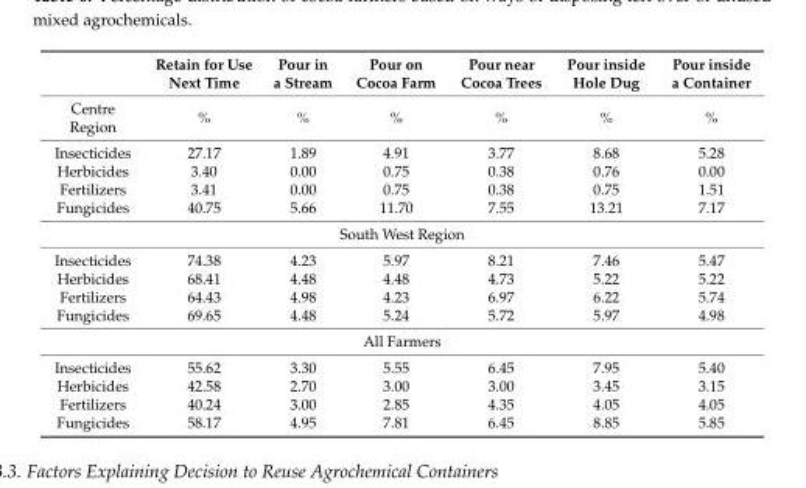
<table><thead><tr><td></td><td>Retain for Use Next Time</td><td>Pour in a Stream</td><td>Pour on Cocoa Farm</td><td>Pour near Cocoa Trees</td><td>Pour inside Hole Dug</td><td>Pour inside a Container</td></tr></thead><tbody><tr><td>Centre Region</td><td>%</td><td>%</td><td>%</td><td>%</td><td>%</td><td>%</td></tr><tr><td>Insecticides</td><td>27.17</td><td>1.89</td><td>4.91</td><td>3.77</td><td>8.68</td><td>5.28</td></tr><tr><td>Herbicides</td><td>3.40</td><td>0.00</td><td>0.75</td><td>0.38</td><td>0.76</td><td>0.00</td></tr><tr><td>Fertilizers</td><td>3.41</td><td>0.00</td><td>0.75</td><td>0.38</td><td>0.75</td><td>1.51</td></tr><tr><td>Fungicides</td><td>40.75</td><td>5.66</td><td>11.70</td><td>7.55</td><td>13.21</td><td>7.17</td></tr><tr><td colspan="7">South West Region</td></tr><tr><td>Insecticides</td><td>74.38</td><td>4.23</td><td>5.97</td><td>8.21</td><td>7.46</td><td>5.47</td></tr><tr><td>Herbicides</td><td>68.41</td><td>4.48</td><td>4.48</td><td>4.73</td><td>5.22</td><td>5.22</td></tr><tr><td>Fertilizers</td><td>64.43</td><td>4.98</td><td>4.23</td><td>6.97</td><td>6.22</td><td>5.74</td></tr><tr><td>Fungicides</td><td>69.65</td><td>4.48</td><td>5.24</td><td>5.72</td><td>5.97</td><td>4.98</td></tr><tr><td colspan="7">All Farmers</td></tr><tr><td>Insecticides</td><td>55.62</td><td>3.30</td><td>5.55</td><td>6.45</td><td>7.95</td><td>5.40</td></tr><tr><td>Herbicides</td><td>42.58</td><td>2.70</td><td>3.00</td><td>3.00</td><td>3.45</td><td>3.15</td></tr><tr><td>Fertilizers</td><td>40.24</td><td>3.00</td><td>2.85</td><td>4.35</td><td>4.05</td><td>4.05</td></tr><tr><td>Fungicides</td><td>58.17</td><td>4.95</td><td>7.81</td><td>6.45</td><td>8.85</td><td>5.85</td></tr></tbody></table>